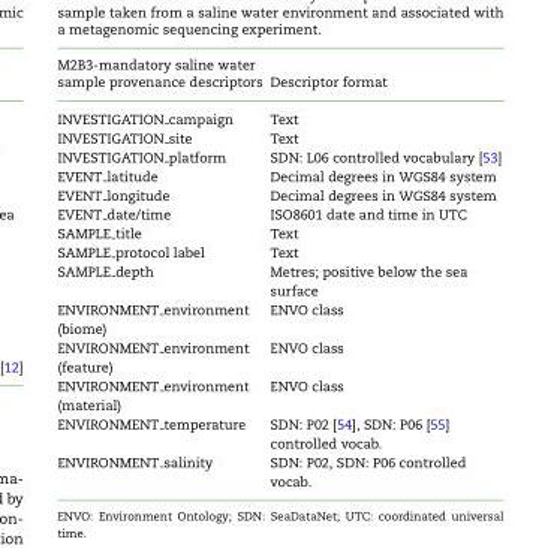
<table><thead><tr><td>M2B3-mandatory saline water sample provenance descriptors</td><td>Descriptor format</td></tr></thead><tbody><tr><td>INVESTIGATION campaign</td><td>Text</td></tr><tr><td>INVESTIGATION site</td><td>Text</td></tr><tr><td>INVESTIGATION platform</td><td>SDN: L06 controlled vocabulary [53]</td></tr><tr><td>EVENT latitude</td><td>Decimal degrees in WGS84 system</td></tr><tr><td>EVENT longitude</td><td>Decimal degrees in WGS84 system</td></tr><tr><td>EVENT date/time</td><td>ISO8601 date and time in UTC</td></tr><tr><td>SAMPLE title</td><td>Text</td></tr><tr><td>SAMPLE protocol label</td><td>Text</td></tr><tr><td>SAMPLE depth</td><td>Metres; positive below the sea surface</td></tr><tr><td>ENVIRONMENT environment (biome)</td><td>ENVO class</td></tr><tr><td>ENVIRONMENT environment (feature)</td><td>ENVO class</td></tr><tr><td>ENVIRONMENT environment (material)</td><td>ENVO class</td></tr><tr><td>ENVIRONMENT temperature</td><td>SDN: P02 [54], SDN: P06 [55] controlled vocab.</td></tr><tr><td>ENVIRONMENT salinity</td><td>SDN: P02, SDN: P06 controlled vocab.</td></tr></tbody></table>